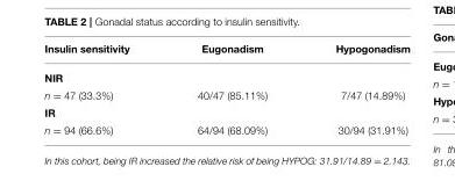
<table><thead><tr><td>Insulin sensitivity</td><td>Eugonadism</td><td>Hypogonadism</td></tr></thead><tbody><tr><td colspan="3">NIR</td></tr><tr><td>n = 47 (33.3%)</td><td>40/47 (85.11%)</td><td>7/47 (14.89%)</td></tr><tr><td colspan="3">IR</td></tr><tr><td>n = 94 (66.6%)</td><td>64/94 (68.09%)</td><td>30/94 (31.91%)</td></tr></tbody></table>